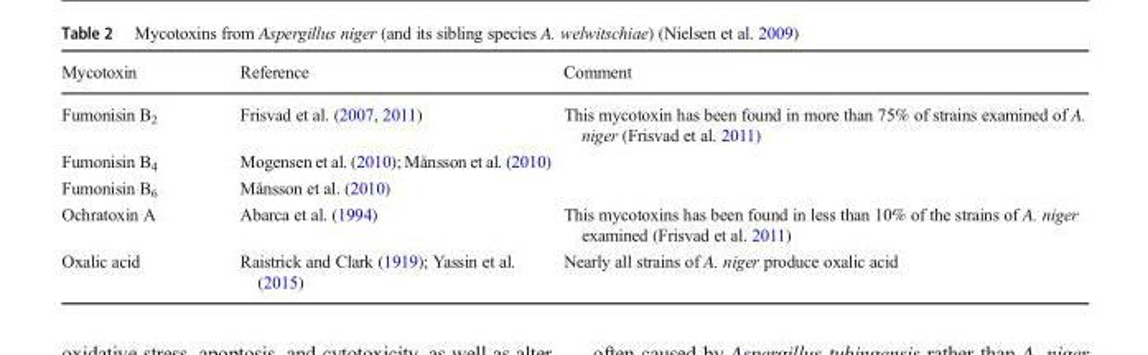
<table><thead><tr><td>Mycotoxin</td><td>Reference</td><td>Comment</td></tr></thead><tbody><tr><td>Fumonisin B<sub>2</sub></td><td>Frisvad et al. (2007, 2011)</td><td>This mycotoxin has been found in more than 75% of strains examined of A. niger (Frisvad et al. 2011)</td></tr><tr><td>Fumonisin B<sub>4</sub></td><td>Mogensen et al. (2010); Månsson et al. (2010)</td><td></td></tr><tr><td>Fumonisin B<sub>6</sub></td><td>Månsson et al. (2010)</td><td></td></tr><tr><td>Ochratoxin A</td><td>Abarca et al. (1994)</td><td>This mycotoxins has been found in less than 10% of the strains of A. niger examined (Frisvad et al. 2011)</td></tr><tr><td>Oxalic acid</td><td>Raistrick and Clark (1919); Yassin et al. (2015)</td><td>Nearly all strains of A. niger produce oxalic acid</td></tr></tbody></table>